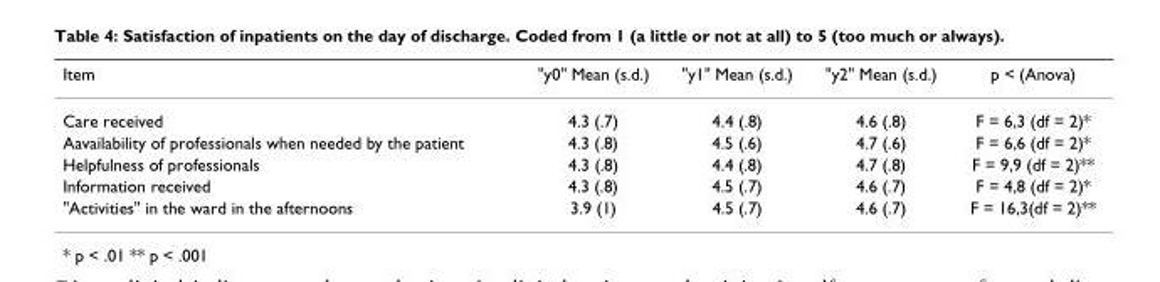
<table><thead><tr><td>Item</td><td>&quot;y0&quot; Mean (s.d.)</td><td>&quot;y1&quot; Mean (s.d.)</td><td>&quot;y2&quot; Mean (s.d.)</td><td>p &lt; (Anova)</td></tr></thead><tbody><tr><td>Care received</td><td>4.3 (.7)</td><td>4.4 (.8)</td><td>4.6 (.8)</td><td>F = 6,3 (df = 2)*</td></tr><tr><td>Aavailability of professionals when needed by the patient</td><td>4.3 (.8)</td><td>4.5 (.6)</td><td>4.7 (.6)</td><td>F = 6,6 (df = 2)*</td></tr><tr><td>Helpfulness of professionals</td><td>4.3 (.8)</td><td>4.4 (.8)</td><td>4.7 (.8)</td><td>F = 9,9 (df = 2)**</td></tr><tr><td>Information received</td><td>4.3 (.8)</td><td>4.5 (.7)</td><td>4.6 (.7)</td><td>F = 4,8 (df = 2)*</td></tr><tr><td>&quot;Activities&quot; in the ward in the afternoons</td><td>3.9 (1)</td><td>4.5 (.7)</td><td>4.6 (.7)</td><td>F = 16,3(df = 2)**</td></tr></tbody></table>